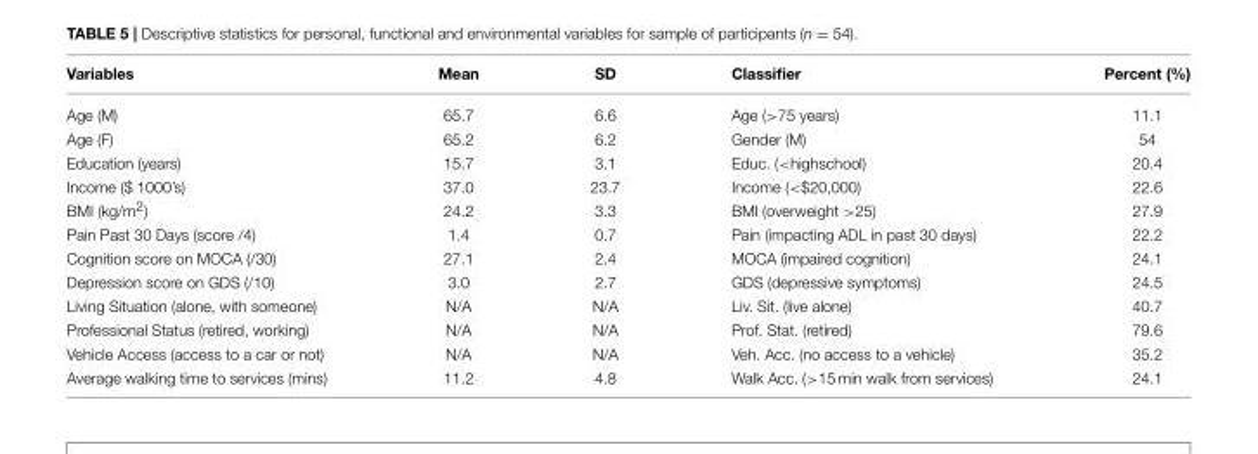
<table><thead><tr><td>Variables</td><td>Mean</td><td>SD</td><td>Classifier</td><td>Percent (%)</td></tr></thead><tbody><tr><td>Age (M)</td><td>65.7</td><td>6.6</td><td>Age (&gt;75 years)</td><td>11.1</td></tr><tr><td>Age (F)</td><td>65.2</td><td>6.2</td><td>Gender (M)</td><td>54</td></tr><tr><td>Education (years)</td><td>15.7</td><td>3.1</td><td>Educ. (&lt;highschool)</td><td>20.4</td></tr><tr><td>Income ($ 1000’s)</td><td>37.0</td><td>23.7</td><td>Income (&lt;$20,000)</td><td>22.6</td></tr><tr><td>BMI (kg/m<sup>2</sup>)</td><td>24.2</td><td>3.3</td><td>BMI (overweight &gt;25)</td><td>27.9</td></tr><tr><td>Pain Past 30 Days (score /4)</td><td>1.4</td><td>0.7</td><td>Pain (impacting ADL in past 30 days)</td><td>22.2</td></tr><tr><td>Cognition score on MOCA (/30)</td><td>27.1</td><td>2.4</td><td>MOCA (impaired cognition)</td><td>24.1</td></tr><tr><td>Depression score on GDS (/10)</td><td>3.0</td><td>2.7</td><td>GDS (depressive symptoms)</td><td>24.5</td></tr><tr><td>Living Situation (alone, with someone)</td><td>N/A</td><td>N/A</td><td>Liv. Sit. (live alone)</td><td>40.7</td></tr><tr><td>Professional Status (retired, working)</td><td>N/A</td><td>N/A</td><td>Prof. Stat. (retired)</td><td>79.6</td></tr><tr><td>Vehicle Access (access to a car or not)</td><td>N/A</td><td>N/A</td><td>Veh. Acc. (no access to a vehicle)</td><td>35.2</td></tr><tr><td>Average walking time to services (mins)</td><td>11.2</td><td>4.8</td><td>Walk Acc. (&gt;15 min walk from services)</td><td>24.1</td></tr></tbody></table>